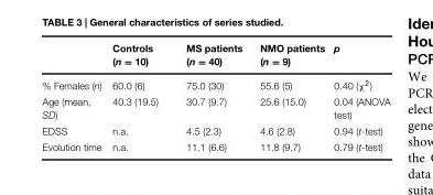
<table><thead><tr><td></td><td>Controls (n = 10)</td><td>MS patients (n = 40)</td><td>NMO patients (n = 9)</td><td>p</td></tr></thead><tbody><tr><td>% Females (n)</td><td>60.0 (6)</td><td>75.0 (30)</td><td>55.6 (5)</td><td>0.40 (χ<sup>2</sup>)</td></tr><tr><td>Age (mean, SD)</td><td>40.3 (19.5)</td><td>30.7 (9.7)</td><td>25.6 (15.0)</td><td>0.04 (ANOVA test)</td></tr><tr><td>EDSS</td><td>n.a.</td><td>4.5 (2.3)</td><td>4.6 (2.8)</td><td>0.94 (t-test)</td></tr><tr><td>Evolution time</td><td>n.a.</td><td>11.1 (6.6)</td><td>11.8 (9.7)</td><td>0.79 (t-test)</td></tr></tbody></table>